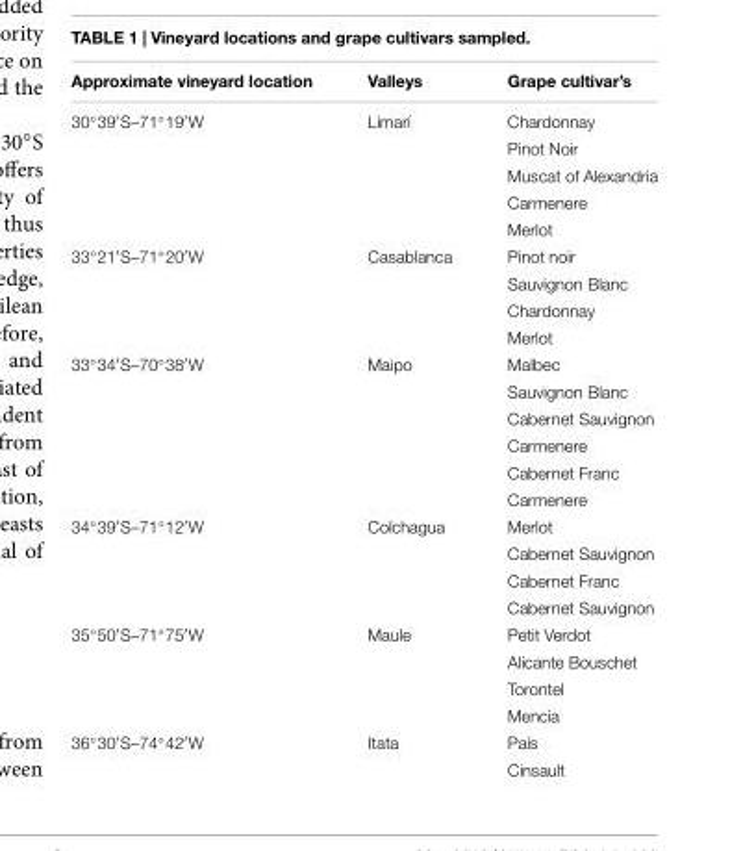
<table><thead><tr><td>Approximate vineyard location</td><td>Valleys</td><td>Grape cultivar’s</td></tr></thead><tbody><tr><td rowspan="5">30◦39′S–71◦19′W</td><td>Limarí</td><td>Chardonnay</td></tr><tr><td></td><td>Pinot Noir</td></tr><tr><td></td><td>Muscat of Alexandria</td></tr><tr><td></td><td>Carmenere</td></tr><tr><td></td><td>Merlot</td></tr><tr><td rowspan="4">33◦21′S–71◦20′W</td><td>Casablanca</td><td>Pinot noir</td></tr><tr><td></td><td>Sauvignon Blanc</td></tr><tr><td></td><td>Chardonnay</td></tr><tr><td></td><td>Merlot</td></tr><tr><td rowspan="6">33◦34′S–70◦38′W</td><td>Maipo</td><td>Malbec</td></tr><tr><td></td><td>Sauvignon Blanc</td></tr><tr><td></td><td>Cabernet Sauvignon</td></tr><tr><td></td><td>Carmenere</td></tr><tr><td></td><td>Cabernet Franc</td></tr><tr><td></td><td>Carmenere</td></tr><tr><td rowspan="4">34◦39′S–71◦12′W</td><td>Colchagua</td><td>Merlot</td></tr><tr><td></td><td>Cabernet Sauvignon</td></tr><tr><td></td><td>Cabernet Franc</td></tr><tr><td></td><td>Cabernet Sauvignon</td></tr><tr><td rowspan="4">35◦50′S–71◦75′W</td><td>Maule</td><td>Petit Verdot</td></tr><tr><td></td><td>Alicante Bouschet</td></tr><tr><td></td><td>Torontel</td></tr><tr><td></td><td>Mencia</td></tr><tr><td rowspan="2">36◦30′S–74◦42′W</td><td>Itata</td><td>País</td></tr><tr><td></td><td>Cinsault</td></tr></tbody></table>